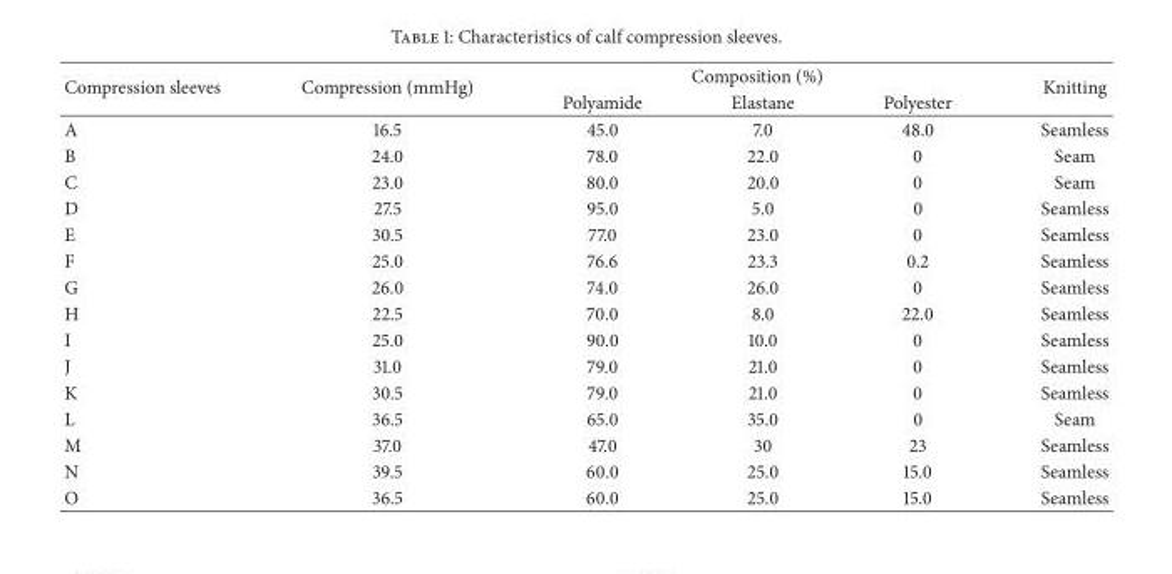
<table><thead><tr><td rowspan="2">Compression sleeves</td><td rowspan="2">Compression (mmHg)</td><td colspan="3">Composition (%)</td><td rowspan="2">Knitting</td></tr><tr><td>Polyamide</td><td>Elastane</td><td>Polyester</td></tr></thead><tbody><tr><td>A</td><td>16.5</td><td>45.0</td><td>7.0</td><td>48.0</td><td>Seamless</td></tr><tr><td>B</td><td>24.0</td><td>78.0</td><td>22.0</td><td>0</td><td>Seam</td></tr><tr><td>C</td><td>23.0</td><td>80.0</td><td>20.0</td><td>0</td><td>Seam</td></tr><tr><td>D</td><td>27.5</td><td>95.0</td><td>5.0</td><td>0</td><td>Seamless</td></tr><tr><td>E</td><td>30.5</td><td>77.0</td><td>23.0</td><td>0</td><td>Seamless</td></tr><tr><td>F</td><td>25.0</td><td>76.6</td><td>23.3</td><td>0.2</td><td>Seamless</td></tr><tr><td>G</td><td>26.0</td><td>74.0</td><td>26.0</td><td>0</td><td>Seamless</td></tr><tr><td>H</td><td>22.5</td><td>70.0</td><td>8.0</td><td>22.0</td><td>Seamless</td></tr><tr><td>I</td><td>25.0</td><td>90.0</td><td>10.0</td><td>0</td><td>Seamless</td></tr><tr><td>J</td><td>31.0</td><td>79.0</td><td>21.0</td><td>0</td><td>Seamless</td></tr><tr><td>K</td><td>30.5</td><td>79.0</td><td>21.0</td><td>0</td><td>Seamless</td></tr><tr><td>L</td><td>36.5</td><td>65.0</td><td>35.0</td><td>0</td><td>Seam</td></tr><tr><td>M</td><td>37.0</td><td>47.0</td><td>30</td><td>23</td><td>Seamless</td></tr><tr><td>N</td><td>39.5</td><td>60.0</td><td>25.0</td><td>15.0</td><td>Seamless</td></tr><tr><td>O</td><td>36.5</td><td>60.0</td><td>25.0</td><td>15.0</td><td>Seamless</td></tr></tbody></table>